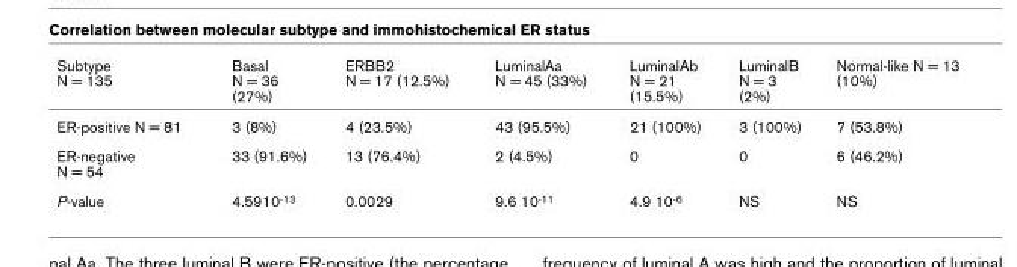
<table><thead><tr><td>Subtype N = 135</td><td>Basal N = 36 (27%)</td><td>ERBB2 N = 17 (12.5%)</td><td>LuminalAa N = 45 (33%)</td><td>LuminalAb N = 21 (15.5%)</td><td>LuminalB N = 3 (2%)</td><td>Normal-like N = 13 (10%)</td></tr></thead><tbody><tr><td>ER-positive N = 81</td><td>3 (8%)</td><td>4 (23.5%)</td><td>43 (95.5%)</td><td>21 (100%)</td><td>3 (100%)</td><td>7 (53.8%)</td></tr><tr><td>ER-negative N = 54</td><td>33 (91.6%)</td><td>13 (76.4%)</td><td>2 (4.5%)</td><td>0</td><td>0</td><td>6 (46.2%)</td></tr><tr><td>P-value</td><td>4.5910<sup>-13</sup></td><td>0.0029</td><td>9.6 10<sup>-11</sup></td><td>4.9 10<sup>-6</sup></td><td>NS</td><td>NS</td></tr></tbody></table>